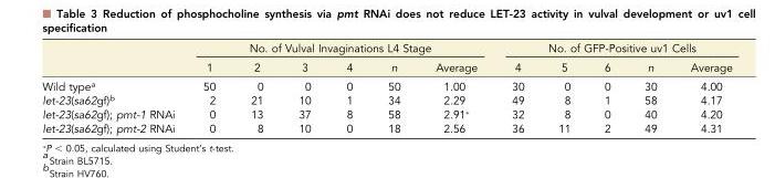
<table><thead><tr><td rowspan="2"></td><td colspan="6">No. of Vulval Invaginations L4 Stage</td><td colspan="5">No. of GFP-Positive uv1 Cells</td></tr><tr><td>1</td><td>2</td><td>3</td><td>4</td><td>n</td><td>Average</td><td>4</td><td>5</td><td>6</td><td>n</td><td>Average</td></tr></thead><tbody><tr><td>Wild type<sup>a</sup></td><td>50</td><td>0</td><td>0</td><td>0</td><td>50</td><td>1.00</td><td>30</td><td>0</td><td>0</td><td>30</td><td>4.00</td></tr><tr><td>let-23(sa62gf)<sup>b</sup></td><td>2</td><td>21</td><td>10</td><td>1</td><td>34</td><td>2.29</td><td>49</td><td>8</td><td>1</td><td>58</td><td>4.17</td></tr><tr><td>let-23(sa62gf); pmt-1 RNAi</td><td>0</td><td>13</td><td>37</td><td>8</td><td>58</td><td>2.91*</td><td>32</td><td>8</td><td>0</td><td>40</td><td>4.20</td></tr><tr><td>let-23(sa62gf); pmt-2 RNAi</td><td>0</td><td>8</td><td>10</td><td>0</td><td>18</td><td>2.56</td><td>36</td><td>11</td><td>2</td><td>49</td><td>4.31</td></tr></tbody></table>